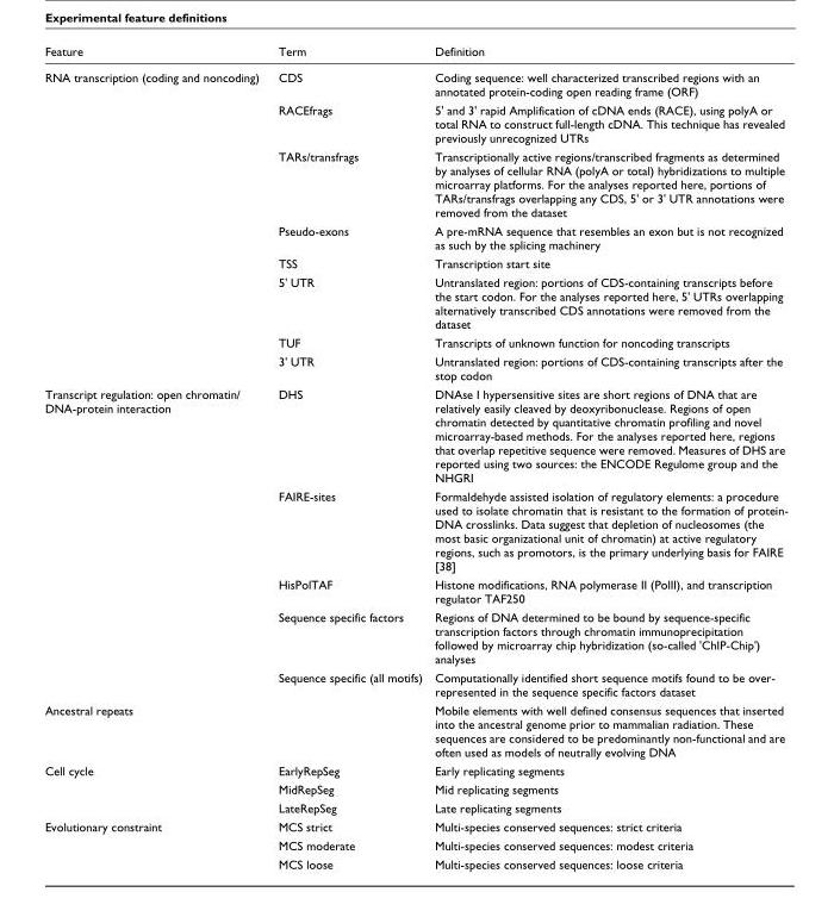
<table><thead><tr><td>Feature</td><td>Term</td><td>Definition</td></tr></thead><tbody><tr><td rowspan="8">RNA transcription (coding and noncoding)</td><td>CDS</td><td>Coding sequence: well characterized transcribed regions with an annotated protein-coding open reading frame (ORF)</td></tr><tr><td>RACEfrags</td><td>5&#x27; and 3&#x27; rapid Amplification of cDNA ends (RACE), using polyA or total RNA to construct full-length cDNA. This technique has revealed previously unrecognized UTRs</td></tr><tr><td>TARs/transfrags</td><td>Transcriptionally active regions/transcribed fragments as determined by analyses of cellular RNA (polyA or total) hybridizations to multiple microarray platforms. For the analyses reported here, portions of TARs/transfrags overlapping any CDS, 5&#x27; or 3&#x27; UTR annotations were removed from the dataset</td></tr><tr><td>Pseudo-exons</td><td>A pre-mRNA sequence that resembles an exon but is not recognized as such by the splicing machinery</td></tr><tr><td>TSS</td><td>Transcription start site</td></tr><tr><td>5&#x27; UTR</td><td>Untranslated region: portions of CDS-containing transcripts before the start codon. For the analyses reported here, 5&#x27; UTRs overlapping alternatively transcribed CDS annotations were removed from the dataset</td></tr><tr><td>TUF</td><td>Transcripts of unknown function for noncoding transcripts</td></tr><tr><td>3&#x27; UTR</td><td>Untranslated region: portions of CDS-containing transcripts after the stop codon</td></tr><tr><td rowspan="5">Transcript regulation: open chromatin/ DNA-protein interaction</td><td>DHS</td><td>DNAse I hypersensitive sites are short regions of DNA that are relatively easily cleaved by deoxyribonuclease. Regions of open chromatin detected by quantitative chromatin profiling and novel microarray-based methods. For the analyses reported here, regions that overlap repetitive sequence were removed. Measures of DHS are reported using two sources: the ENCODE Regulome group and the NHGRI</td></tr><tr><td>FAIRE-sites</td><td>Formaldehyde assisted isolation of regulatory elements: a procedure used to isolate chromatin that is resistant to the formation of protein- DNA crosslinks. Data suggest that depletion of nucleosomes (the most basic organizational unit of chromatin) at active regulatory regions, such as promotors, is the primary underlying basis for FAIRE [38]</td></tr><tr><td>HisPolTAF</td><td>Histone modifications, RNA polymerase II (PolII), and transcription regulator TAF250</td></tr><tr><td>Sequence specific factors</td><td>Regions of DNA determined to be bound by sequence-specific transcription factors through chromatin immunoprecipitation followed by microarray chip hybridization (so-called &#x27;ChIP-Chip&#x27;) analyses</td></tr><tr><td>Sequence specific (all motifs)</td><td>Computationally identified short sequence motifs found to be over- represented in the sequence specific factors dataset</td></tr><tr><td>Ancestral repeats</td><td></td><td>Mobile elements with well defined consensus sequences that inserted into the ancestral genome prior to mammalian radiation. These sequences are considered to be predominantly non-functional and are often used as models of neutrally evolving DNA</td></tr><tr><td rowspan="3">Cell cycle</td><td>EarlyRepSeg</td><td>Early replicating segments</td></tr><tr><td>MidRepSeg</td><td>Mid replicating segments</td></tr><tr><td>LateRepSeg</td><td>Late replicating segments</td></tr><tr><td rowspan="3">Evolutionary constraint</td><td>MCS strict</td><td>Multi-species conserved sequences: strict criteria</td></tr><tr><td>MCS moderate</td><td>Multi-species conserved sequences: modest criteria</td></tr><tr><td>MCS loose</td><td>Multi-species conserved sequences: loose criteria</td></tr></tbody></table>